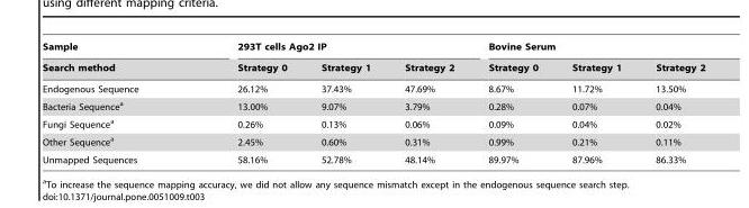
<table><thead><tr><td rowspan="2">Sample Search method</td><td colspan="3">293T cells Ago2 IP</td><td colspan="3">Bovine Serum</td></tr><tr><td>Strategy 0</td><td>Strategy 1</td><td>Strategy 2</td><td>Strategy 0</td><td>Strategy 1</td><td>Strategy 2</td></tr></thead><tbody><tr><td>Endogenous Sequence</td><td>26.12%</td><td>37.43%</td><td>47.69%</td><td>8.67%</td><td>11.72%</td><td>13.50%</td></tr><tr><td>Bacteria Sequence<sup>a</sup></td><td>13.00%</td><td>9.07%</td><td>3.79%</td><td>0.28%</td><td>0.07%</td><td>0.04%</td></tr><tr><td>Fungi Sequence<sup>a</sup></td><td>0.26%</td><td>0.13%</td><td>0.06%</td><td>0.09%</td><td>0.04%</td><td>0.02%</td></tr><tr><td>Other Sequence<sup>a</sup></td><td>2.45%</td><td>0.60%</td><td>0.31%</td><td>0.99%</td><td>0.21%</td><td>0.11%</td></tr><tr><td>Unmapped Sequences</td><td>58.16%</td><td>52.78%</td><td>48.14%</td><td>89.97%</td><td>87.96%</td><td>86.33%</td></tr></tbody></table>